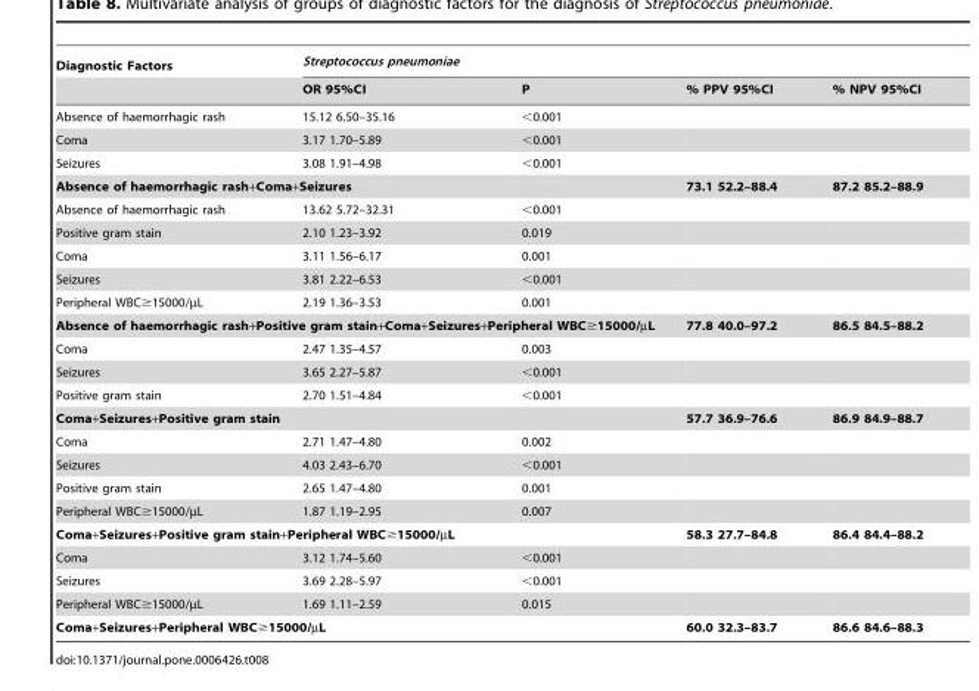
<table><thead><tr><td rowspan="2">Diagnostic Factors</td><td colspan="4">Streptococcus pneumoniae</td></tr><tr><td>OR 95%CI</td><td>P</td><td>% PPV 95%CI</td><td>% NPV 95%CI</td></tr></thead><tbody><tr><td>Absence of haemorrhagic rash</td><td>15.12 6.50–35.16</td><td>&lt;0.001</td><td></td><td></td></tr><tr><td>Coma</td><td>3.17 1.70–5.89</td><td>&lt;0.001</td><td></td><td></td></tr><tr><td>Seizures</td><td>3.08 1.91–4.98</td><td>&lt;0.001</td><td></td><td></td></tr><tr><td colspan="3">Absence of haemorrhagic rash+Coma+Seizures</td><td>73.1 52.2–88.4</td><td>87.2 85.2–88.9</td></tr><tr><td>Absence of haemorrhagic rash</td><td>13.62 5.72–32.31</td><td>&lt;0.001</td><td></td><td></td></tr><tr><td>Positive gram stain</td><td>2.10 1.23–3.92</td><td>0.019</td><td></td><td></td></tr><tr><td>Coma</td><td>3.11 1.56–6.17</td><td>0.001</td><td></td><td></td></tr><tr><td>Seizures</td><td>3.81 2.22–6.53</td><td>&lt;0.001</td><td></td><td></td></tr><tr><td>Peripheral WBC≥15000/µL</td><td>2.19 1.36–3.53</td><td>0.001</td><td></td><td></td></tr><tr><td colspan="3">Absence of haemorrhagic rash+Positive gram stain+Coma+Seizures+Peripheral WBC≥15000/µL</td><td>77.8 40.0–97.2</td><td>86.5 84.5–88.2</td></tr><tr><td>Coma</td><td>2.47 1.35–4.57</td><td>0.003</td><td></td><td></td></tr><tr><td>Seizures</td><td>3.65 2.27–5.87</td><td>&lt;0.001</td><td></td><td></td></tr><tr><td>Positive gram stain</td><td>2.70 1.51–4.84</td><td>&lt;0.001</td><td></td><td></td></tr><tr><td colspan="3">Coma+Seizures+Positive gram stain</td><td>57.7 36.9–76.6</td><td>86.9 84.9–88.7</td></tr><tr><td>Coma</td><td>2.71 1.47–4.80</td><td>0.002</td><td></td><td></td></tr><tr><td>Seizures</td><td>4.03 2.43–6.70</td><td>&lt;0.001</td><td></td><td></td></tr><tr><td>Positive gram stain</td><td>2.65 1.47–4.80</td><td>0.001</td><td></td><td></td></tr><tr><td>Peripheral WBC≥15000/µL</td><td>1.87 1.19–2.95</td><td>0.007</td><td></td><td></td></tr><tr><td colspan="3">Coma+Seizures+Positive gram stain+Peripheral WBC≥15000/µL</td><td>58.3 27.7–84.8</td><td>86.4 84.4–88.2</td></tr><tr><td>Coma</td><td>3.12 1.74–5.60</td><td>&lt;0.001</td><td></td><td></td></tr><tr><td>Seizures</td><td>3.69 2.28–5.97</td><td>&lt;0.001</td><td></td><td></td></tr><tr><td>Peripheral WBC≥15000/µL</td><td>1.69 1.11–2.59</td><td>0.015</td><td></td><td></td></tr><tr><td colspan="3">Coma+Seizures+Peripheral WBC≥15000/µL</td><td>60.0 32.3–83.7</td><td>86.6 84.6–88.3</td></tr></tbody></table>